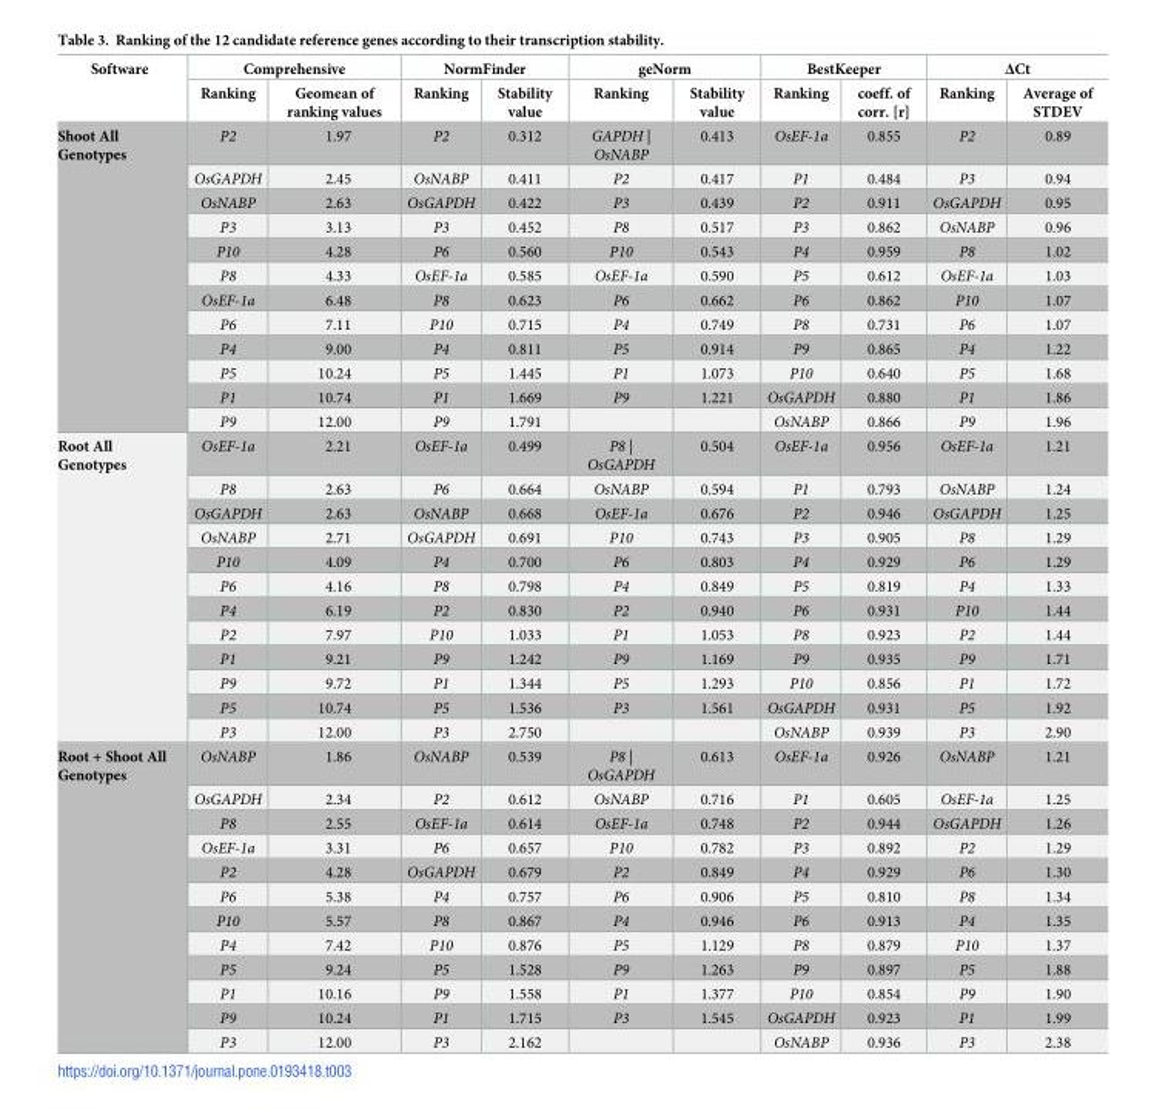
<table><thead><tr><td rowspan="2">Software</td><td colspan="2">Comprehensive</td><td colspan="2">NormFinder</td><td colspan="2">geNorm</td><td colspan="2">BestKeeper</td><td colspan="2">ΔCt</td></tr><tr><td>Ranking</td><td>Geomean of ranking values</td><td>Ranking</td><td>Stability value</td><td>Ranking</td><td>Stability value</td><td>Ranking</td><td>coeff. of corr. [r]</td><td>Ranking</td><td>Average of STDEV</td></tr></thead><tbody><tr><td rowspan="12">Shoot All Genotypes</td><td>P2</td><td>1.97</td><td>P2</td><td>0.312</td><td>GAPDH | OsNABP</td><td>0.413</td><td>OsEF-1a</td><td>0.855</td><td>P2</td><td>0.89</td></tr><tr><td>OsGAPDH</td><td>2.45</td><td>OsNABP</td><td>0.411</td><td>P2</td><td>0.417</td><td>P1</td><td>0.484</td><td>P3</td><td>0.94</td></tr><tr><td>OsNABP</td><td>2.63</td><td>OsGAPDH</td><td>0.422</td><td>P3</td><td>0.439</td><td>P2</td><td>0.911</td><td>OsGAPDH</td><td>0.95</td></tr><tr><td>P3</td><td>3.13</td><td>P3</td><td>0.452</td><td>P8</td><td>0.517</td><td>P3</td><td>0.862</td><td>OsNABP</td><td>0.96</td></tr><tr><td>P10</td><td>4.28</td><td>P6</td><td>0.560</td><td>P10</td><td>0.543</td><td>P4</td><td>0.959</td><td>P8</td><td>1.02</td></tr><tr><td>P8</td><td>4.33</td><td>OsEF-1a</td><td>0.585</td><td>OsEF-1a</td><td>0.590</td><td>P5</td><td>0.612</td><td>OsEF-1a</td><td>1.03</td></tr><tr><td>OsEF-1a</td><td>6.48</td><td>P8</td><td>0.623</td><td>P6</td><td>0.662</td><td>P6</td><td>0.862</td><td>P10</td><td>1.07</td></tr><tr><td>P6</td><td>7.11</td><td>P10</td><td>0.715</td><td>P4</td><td>0.749</td><td>P8</td><td>0.731</td><td>P6</td><td>1.07</td></tr><tr><td>P4</td><td>9.00</td><td>P4</td><td>0.811</td><td>P5</td><td>0.914</td><td>P9</td><td>0.865</td><td>P4</td><td>1.22</td></tr><tr><td>P5</td><td>10.24</td><td>P5</td><td>1.445</td><td>P1</td><td>1.073</td><td>P10</td><td>0.640</td><td>P5</td><td>1.68</td></tr><tr><td>P1</td><td>10.74</td><td>P1</td><td>1.669</td><td>P9</td><td>1.221</td><td>OsGAPDH</td><td>0.880</td><td>P1</td><td>1.86</td></tr><tr><td>P9</td><td>12.00</td><td>P9</td><td>1.791</td><td></td><td></td><td>OsNABP</td><td>0.866</td><td>P9</td><td>1.96</td></tr><tr><td rowspan="12">Root All Genotypes</td><td>OsEF-1a</td><td>2.21</td><td>OsEF-1a</td><td>0.499</td><td>P8 | OsGAPDH</td><td>0.504</td><td>OsEF-1a</td><td>0.956</td><td>OsEF-1a</td><td>1.21</td></tr><tr><td>P8</td><td>2.63</td><td>P6</td><td>0.664</td><td>OsNABP</td><td>0.594</td><td>P1</td><td>0.793</td><td>OsNABP</td><td>1.24</td></tr><tr><td>OsGAPDH</td><td>2.63</td><td>OsNABP</td><td>0.668</td><td>OsEF-1a</td><td>0.676</td><td>P2</td><td>0.946</td><td>OsGAPDH</td><td>1.25</td></tr><tr><td>OsNABP</td><td>2.71</td><td>OsGAPDH</td><td>0.691</td><td>P10</td><td>0.743</td><td>P3</td><td>0.905</td><td>P8</td><td>1.29</td></tr><tr><td>P10</td><td>4.09</td><td>P4</td><td>0.700</td><td>P6</td><td>0.803</td><td>P4</td><td>0.929</td><td>P6</td><td>1.29</td></tr><tr><td>P6</td><td>4.16</td><td>P8</td><td>0.798</td><td>P4</td><td>0.849</td><td>P5</td><td>0.819</td><td>P4</td><td>1.33</td></tr><tr><td>P4</td><td>6.19</td><td>P2</td><td>0.830</td><td>P2</td><td>0.940</td><td>P6</td><td>0.931</td><td>P10</td><td>1.44</td></tr><tr><td>P2</td><td>7.97</td><td>P10</td><td>1.033</td><td>P1</td><td>1.053</td><td>P8</td><td>0.923</td><td>P2</td><td>1.44</td></tr><tr><td>P1</td><td>9.21</td><td>P9</td><td>1.242</td><td>P9</td><td>1.169</td><td>P9</td><td>0.935</td><td>P9</td><td>1.71</td></tr><tr><td>P9</td><td>9.72</td><td>P1</td><td>1.344</td><td>P5</td><td>1.293</td><td>P10</td><td>0.856</td><td>P1</td><td>1.72</td></tr><tr><td>P5</td><td>10.74</td><td>P5</td><td>1.536</td><td>P3</td><td>1.561</td><td>OsGAPDH</td><td>0.931</td><td>P5</td><td>1.92</td></tr><tr><td>P3</td><td>12.00</td><td>P3</td><td>2.750</td><td></td><td></td><td>OsNABP</td><td>0.939</td><td>P3</td><td>2.90</td></tr><tr><td rowspan="12">Root + Shoot All Genotypes</td><td>OsNABP</td><td>1.86</td><td>OsNABP</td><td>0.539</td><td>P8 | OsGAPDH</td><td>0.613</td><td>OsEF-1a</td><td>0.926</td><td>OsNABP</td><td>1.21</td></tr><tr><td>OsGAPDH</td><td>2.34</td><td>P2</td><td>0.612</td><td>OsNABP</td><td>0.716</td><td>P1</td><td>0.605</td><td>OsEF-1a</td><td>1.25</td></tr><tr><td>P8</td><td>2.55</td><td>OsEF-1a</td><td>0.614</td><td>OsEF-1a</td><td>0.748</td><td>P2</td><td>0.944</td><td>OsGAPDH</td><td>1.26</td></tr><tr><td>OsEF-1a</td><td>3.31</td><td>P6</td><td>0.657</td><td>P10</td><td>0.782</td><td>P3</td><td>0.892</td><td>P2</td><td>1.29</td></tr><tr><td>P2</td><td>4.28</td><td>OsGAPDH</td><td>0.679</td><td>P2</td><td>0.849</td><td>P4</td><td>0.929</td><td>P6</td><td>1.30</td></tr><tr><td>P6</td><td>5.38</td><td>P4</td><td>0.757</td><td>P6</td><td>0.906</td><td>P5</td><td>0.810</td><td>P8</td><td>1.34</td></tr><tr><td>P10</td><td>5.57</td><td>P8</td><td>0.867</td><td>P4</td><td>0.946</td><td>P6</td><td>0.913</td><td>P4</td><td>1.35</td></tr><tr><td>P4</td><td>7.42</td><td>P10</td><td>0.876</td><td>P5</td><td>1.129</td><td>P8</td><td>0.879</td><td>P10</td><td>1.37</td></tr><tr><td>P5</td><td>9.24</td><td>P5</td><td>1.528</td><td>P9</td><td>1.263</td><td>P9</td><td>0.897</td><td>P5</td><td>1.88</td></tr><tr><td>P1</td><td>10.16</td><td>P9</td><td>1.558</td><td>P1</td><td>1.377</td><td>P10</td><td>0.854</td><td>P9</td><td>1.90</td></tr><tr><td>P9</td><td>10.24</td><td>P1</td><td>1.715</td><td>P3</td><td>1.545</td><td>OsGAPDH</td><td>0.923</td><td>P1</td><td>1.99</td></tr><tr><td>P3</td><td>12.00</td><td>P3</td><td>2.162</td><td></td><td></td><td>OsNABP</td><td>0.936</td><td>P3</td><td>2.38</td></tr></tbody></table>